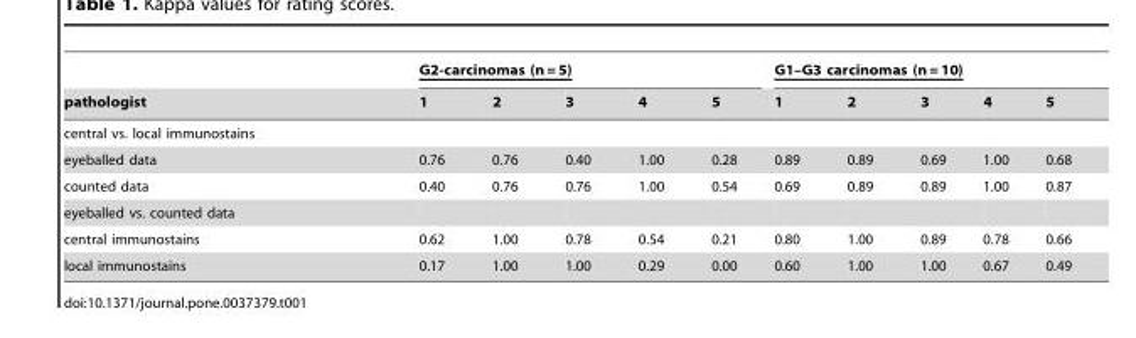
<table><thead><tr><td rowspan="2">pathologist</td><td colspan="5">G2-carcinomas (n = 5)</td><td colspan="5">G1–G3 carcinomas (n = 10)</td></tr><tr><td>1</td><td>2</td><td>3</td><td>4</td><td>5</td><td>1</td><td>2</td><td>3</td><td>4</td><td>5</td></tr></thead><tbody><tr><td colspan="11">central vs. local immunostains</td></tr><tr><td>eyeballed data</td><td>0.76</td><td>0.76</td><td>0.40</td><td>1.00</td><td>0.28</td><td>0.89</td><td>0.89</td><td>0.69</td><td>1.00</td><td>0.68</td></tr><tr><td>counted data</td><td>0.40</td><td>0.76</td><td>0.76</td><td>1.00</td><td>0.54</td><td>0.69</td><td>0.89</td><td>0.89</td><td>1.00</td><td>0.87</td></tr><tr><td colspan="11">eyeballed vs. counted data</td></tr><tr><td>central immunostains</td><td>0.62</td><td>1.00</td><td>0.78</td><td>0.54</td><td>0.21</td><td>0.80</td><td>1.00</td><td>0.89</td><td>0.78</td><td>0.66</td></tr><tr><td>local immunostains</td><td>0.17</td><td>1.00</td><td>1.00</td><td>0.29</td><td>0.00</td><td>0.60</td><td>1.00</td><td>1.00</td><td>0.67</td><td>0.49</td></tr></tbody></table>